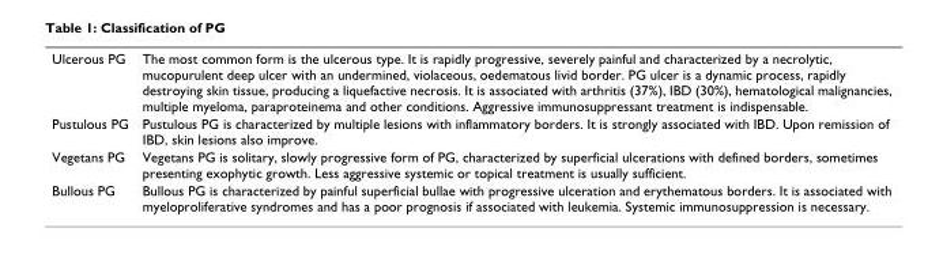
<table><tbody><tr><td>Ulcerous PG</td><td>The most common form is the ulcerous type. It is rapidly progressive, severely painful and characterized by a necrolytic, mucopurulent deep ulcer with an undermined, violaceous, oedematous livid border. PG ulcer is a dynamic process, rapidly destroying skin tissue, producing a liquefactive necrosis. It is associated with arthritis (37%), IBD (30%), hematological malignancies, multiple myeloma, paraproteinema and other conditions. Aggressive immunosuppressant treatment is indispensable.</td></tr><tr><td>Pustulous PG</td><td>Pustulous PG is characterized by multiple lesions with inflammatory borders. It is strongly associated with IBD. Upon remission of IBD, skin lesions also improve.</td></tr><tr><td>Vegetans PG</td><td>Vegetans PG is solitary, slowly progressive form of PG, characterized by superficial ulcerations with defined borders, sometimes presenting exophytic growth. Less aggressive systemic or topical treatment is usually sufficient.</td></tr><tr><td>Bullous PG</td><td>Bullous PG is characterized by painful superficial bullae with progressive ulceration and erythematous borders. It is associated with myeloproliferative syndromes and has a poor prognosis if associated with leukemia. Systemic immunosuppression is necessary.</td></tr></tbody></table>